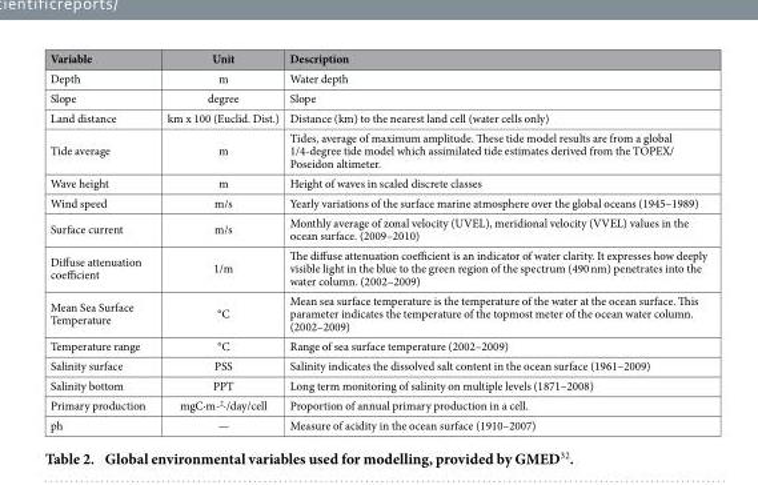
<table><thead><tr><td>Variable</td><td>Unit</td><td>Description</td></tr></thead><tbody><tr><td>Depth</td><td>m</td><td>Water depth</td></tr><tr><td>Slope</td><td>degree</td><td>Slope</td></tr><tr><td>Land distance</td><td>km x 100 (Euclid. Dist.)</td><td>Distance (km) to the nearest land cell (water cells only)</td></tr><tr><td>Tide average</td><td>m</td><td>Tides, average of maximum amplitude. These tide model results are from a global 1/4-degree tide model which assimilated tide estimates derived from the TOPEX/ Poseidon altimeter.</td></tr><tr><td>Wave height</td><td>m</td><td>Height of waves in scaled discrete classes</td></tr><tr><td>Wind speed</td><td>m/s</td><td>Yearly variations of the surface marine atmosphere over the global oceans (1945–1989)</td></tr><tr><td>Surface current</td><td>m/s</td><td>Monthly average of zonal velocity (UVEL), meridional velocity (VVEL) values in the ocean surface. (2009–2010)</td></tr><tr><td>Diffuse attenuation coefficient</td><td>1/m</td><td>The diffuse attenuation coefficient is an indicator of water clarity. It expresses how deeply visible light in the blue to the green region of the spectrum (490 nm) penetrates into the water column. (2002–2009)</td></tr><tr><td>Mean Sea Surface Temperature</td><td>°C</td><td>Mean sea surface temperature is the temperature of the water at the ocean surface. This parameter indicates the temperature of the topmost meter of the ocean water column. (2002–2009)</td></tr><tr><td>Temperature range</td><td>°C</td><td>Range of sea surface temperature (2002–2009)</td></tr><tr><td>Salinity surface</td><td>PSS</td><td>Salinity indicates the dissolved salt content in the ocean surface (1961–2009)</td></tr><tr><td>Salinity bottom</td><td>PPT</td><td>Long term monitoring of salinity on multiple levels (1871–2008)</td></tr><tr><td>Primary production</td><td>mgC·m-<sup>2</sup>·/day/cell</td><td>Proportion of annual primary production in a cell.</td></tr><tr><td>ph</td><td>—</td><td>Measure of acidity in the ocean surface (1910–2007)</td></tr></tbody></table>